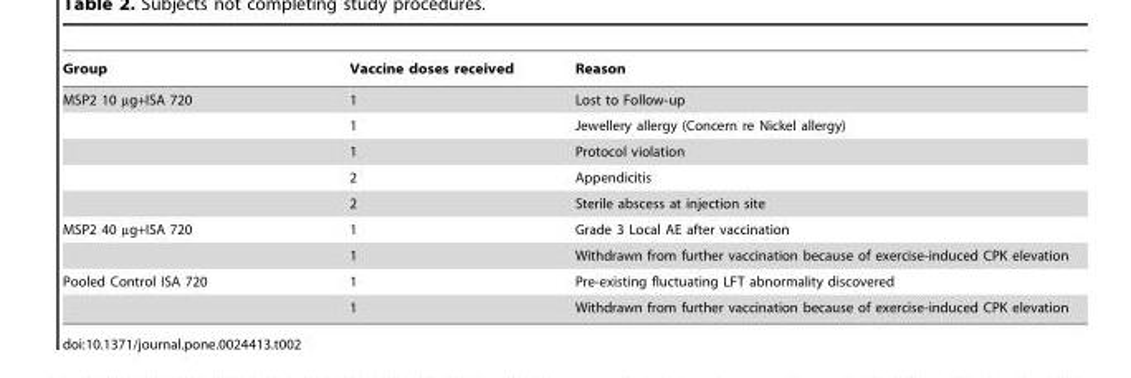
<table><thead><tr><td>Group</td><td>Vaccine doses received</td><td>Reason</td></tr></thead><tbody><tr><td rowspan="5">MSP2 10 µg+ISA 720</td><td>1</td><td>Lost to Follow-up</td></tr><tr><td>1</td><td>Jewellery allergy (Concern re Nickel allergy)</td></tr><tr><td>1</td><td>Protocol violation</td></tr><tr><td>2</td><td>Appendicitis</td></tr><tr><td>2</td><td>Sterile abscess at injection site</td></tr><tr><td rowspan="2">MSP2 40 µg+ISA 720</td><td>1</td><td>Grade 3 Local AE after vaccination</td></tr><tr><td>1</td><td>Withdrawn from further vaccination because of exercise-induced CPK elevation</td></tr><tr><td rowspan="2">Pooled Control ISA 720</td><td>1</td><td>Pre-existing fluctuating LFT abnormality discovered</td></tr><tr><td>1</td><td>Withdrawn from further vaccination because of exercise-induced CPK elevation</td></tr></tbody></table>